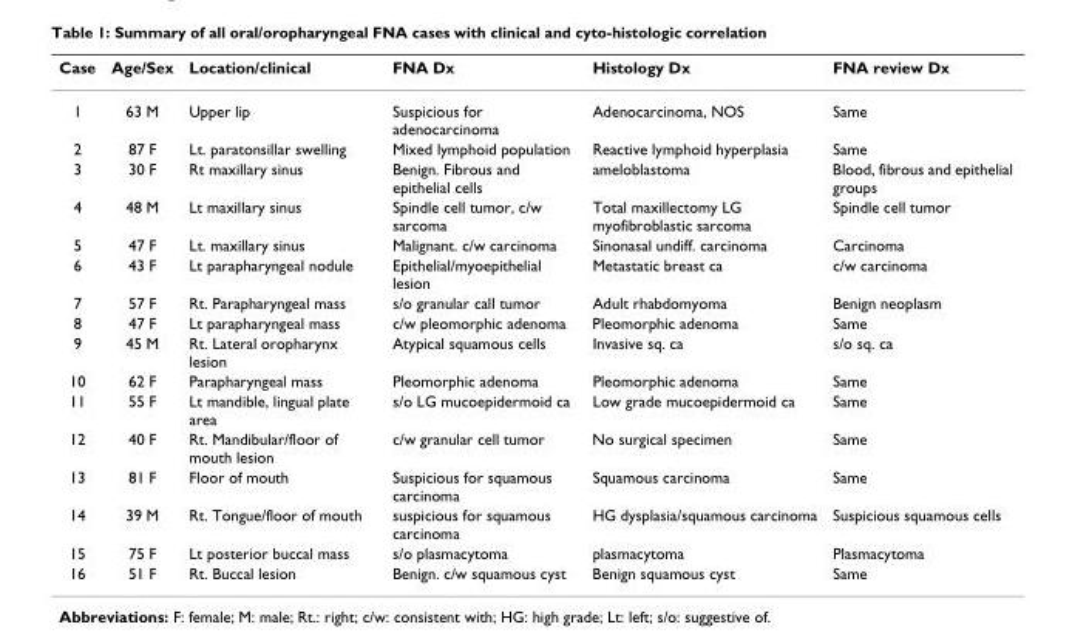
<table><thead><tr><td>Case</td><td>Age/Sex</td><td>Location/clinical</td><td>FNA Dx</td><td>Histology Dx</td><td>FNA review Dx</td></tr></thead><tbody><tr><td>1</td><td>63 M</td><td>Upper lip</td><td>Suspicious for adenocarcinoma</td><td>Adenocarcinoma, NOS</td><td>Same</td></tr><tr><td>2</td><td>87 F</td><td>Lt. paratonsillar swelling</td><td>Mixed lymphoid population</td><td>Reactive lymphoid hyperplasia</td><td>Same</td></tr><tr><td>3</td><td>30 F</td><td>Rt maxillary sinus</td><td>Benign. Fibrous and epithelial cells</td><td>ameloblastoma</td><td>Blood, fibrous and epithelial groups</td></tr><tr><td>4</td><td>48 M</td><td>Lt maxillary sinus</td><td>Spindle cell tumor, c/w sarcoma</td><td>Total maxillectomy LG myofibroblastic sarcoma</td><td>Spindle cell tumor</td></tr><tr><td>5</td><td>47 F</td><td>Lt. maxillary sinus</td><td>Malignant. c/w carcinoma</td><td>Sinonasal undiff. carcinoma</td><td>Carcinoma</td></tr><tr><td>6</td><td>43 F</td><td>Lt parapharyngeal nodule</td><td>Epithelial/myoepithelial lesion</td><td>Metastatic breast ca</td><td>c/w carcinoma</td></tr><tr><td>7</td><td>57 F</td><td>Rt. Parapharyngeal mass</td><td>s/o granular call tumor</td><td>Adult rhabdomyoma</td><td>Benign neoplasm</td></tr><tr><td>8</td><td>47 F</td><td>Lt parapharyngeal mass</td><td>c/w pleomorphic adenoma</td><td>Pleomorphic adenoma</td><td>Same</td></tr><tr><td>9</td><td>45 M</td><td>Rt. Lateral oropharynx lesion</td><td>Atypical squamous cells</td><td>Invasive sq. ca</td><td>s/o sq. ca</td></tr><tr><td>10</td><td>62 F</td><td>Parapharyngeal mass</td><td>Pleomorphic adenoma</td><td>Pleomorphic adenoma</td><td>Same</td></tr><tr><td>11</td><td>55 F</td><td>Lt mandible, lingual plate area</td><td>s/o LG mucoepidermoid ca</td><td>Low grade mucoepidermoid ca</td><td>Same</td></tr><tr><td>12</td><td>40 F</td><td>Rt. Mandibular/floor of mouth lesion</td><td>c/w granular cell tumor</td><td>No surgical specimen</td><td>Same</td></tr><tr><td>13</td><td>81 F</td><td>Floor of mouth</td><td>Suspicious for squamous carcinoma</td><td>Squamous carcinoma</td><td>Same</td></tr><tr><td>14</td><td>39 M</td><td>Rt. Tongue/floor of mouth</td><td>suspicious for squamous carcinoma</td><td>HG dysplasia/squamous carcinoma</td><td>Suspicious squamous cells</td></tr><tr><td>15</td><td>75 F</td><td>Lt posterior buccal mass</td><td>s/o plasmacytoma</td><td>plasmacytoma</td><td>Plasmacytoma</td></tr><tr><td>16</td><td>51 F</td><td>Rt. Buccal lesion</td><td>Benign. c/w squamous cyst</td><td>Benign squamous cyst</td><td>Same</td></tr></tbody></table>